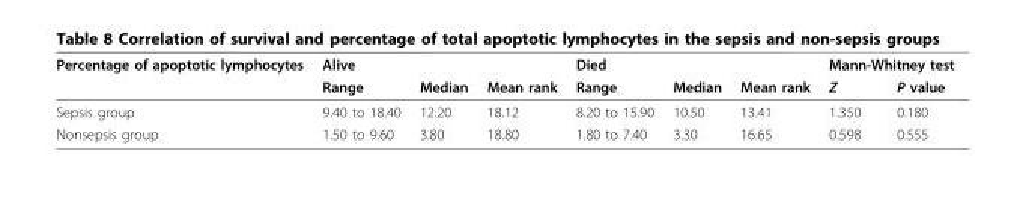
<table><thead><tr><td rowspan="2">Percentage of apoptotic lymphocytes</td><td colspan="3">Alive</td><td colspan="3">Died</td><td colspan="2">Mann-Whitney test</td></tr><tr><td>Range</td><td>Median</td><td>Mean rank</td><td>Range</td><td>Median</td><td>Mean rank</td><td>Z</td><td>P value</td></tr></thead><tbody><tr><td>Sepsis group</td><td>9.40 to 18.40</td><td>12.20</td><td>18.12</td><td>8.20 to 15.90</td><td>10.50</td><td>13.41</td><td>1.350</td><td>0.180</td></tr><tr><td>Nonsepsis group</td><td>1.50 to 9.60</td><td>3.80</td><td>18.80</td><td>1.80 to 7.40</td><td>3.30</td><td>16.65</td><td>0.598</td><td>0.555</td></tr></tbody></table>